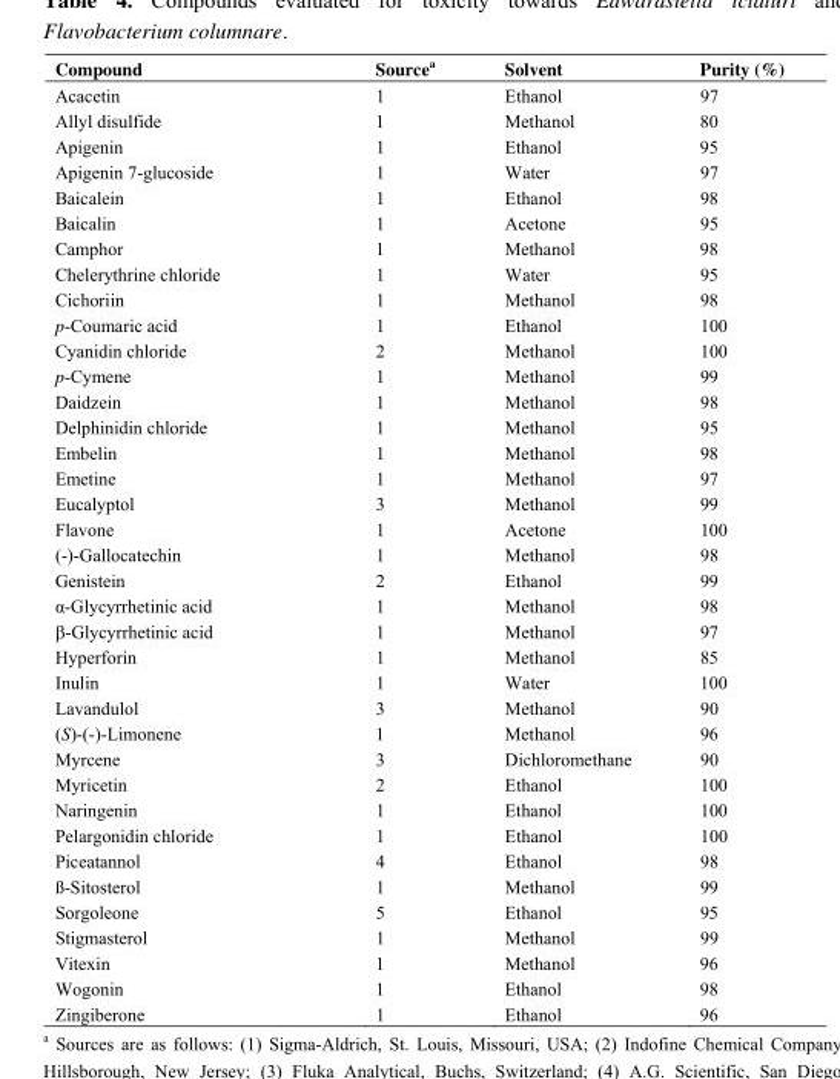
<table><thead><tr><td>Compound</td><td>Source<sup>a</sup></td><td>Solvent</td><td>Purity (%)</td></tr></thead><tbody><tr><td>Acacetin</td><td>1</td><td>Ethanol</td><td>97</td></tr><tr><td>Allyl disulfide</td><td>1</td><td>Methanol</td><td>80</td></tr><tr><td>Apigenin</td><td>1</td><td>Ethanol</td><td>95</td></tr><tr><td>Apigenin 7-glucoside</td><td>1</td><td>Water</td><td>97</td></tr><tr><td>Baicalein</td><td>1</td><td>Ethanol</td><td>98</td></tr><tr><td>Baicalin</td><td>1</td><td>Acetone</td><td>95</td></tr><tr><td>Camphor</td><td>1</td><td>Methanol</td><td>98</td></tr><tr><td>Chelerythrine chloride</td><td>1</td><td>Water</td><td>95</td></tr><tr><td>Cichoriin</td><td>1</td><td>Methanol</td><td>98</td></tr><tr><td>p-Coumaric acid</td><td>1</td><td>Ethanol</td><td>100</td></tr><tr><td>Cyanidin chloride</td><td>2</td><td>Methanol</td><td>100</td></tr><tr><td>p-Cymene</td><td>1</td><td>Methanol</td><td>99</td></tr><tr><td>Daidzein</td><td>1</td><td>Methanol</td><td>98</td></tr><tr><td>Delphinidin chloride</td><td>1</td><td>Methanol</td><td>95</td></tr><tr><td>Embelin</td><td>1</td><td>Methanol</td><td>98</td></tr><tr><td>Emetine</td><td>1</td><td>Methanol</td><td>97</td></tr><tr><td>Eucalyptol</td><td>3</td><td>Methanol</td><td>99</td></tr><tr><td>Flavone</td><td>1</td><td>Acetone</td><td>100</td></tr><tr><td>(-)-Gallocatechin</td><td>1</td><td>Methanol</td><td>98</td></tr><tr><td>Genistein</td><td>2</td><td>Ethanol</td><td>99</td></tr><tr><td>α-Glycyrrhetinic acid</td><td>1</td><td>Methanol</td><td>98</td></tr><tr><td>β-Glycyrrhetinic acid</td><td>1</td><td>Methanol</td><td>97</td></tr><tr><td>Hyperforin</td><td>1</td><td>Methanol</td><td>85</td></tr><tr><td>Inulin</td><td>1</td><td>Water</td><td>100</td></tr><tr><td>Lavandulol</td><td>3</td><td>Methanol</td><td>90</td></tr><tr><td>(S)-(-)-Limonene</td><td>1</td><td>Methanol</td><td>96</td></tr><tr><td>Myrcene</td><td>3</td><td>Dichloromethane</td><td>90</td></tr><tr><td>Myricetin</td><td>2</td><td>Ethanol</td><td>100</td></tr><tr><td>Naringenin</td><td>1</td><td>Ethanol</td><td>100</td></tr><tr><td>Pelargonidin chloride</td><td>1</td><td>Ethanol</td><td>100</td></tr><tr><td>Piceatannol</td><td>4</td><td>Ethanol</td><td>98</td></tr><tr><td>ß-Sitosterol</td><td>1</td><td>Methanol</td><td>99</td></tr><tr><td>Sorgoleone</td><td>5</td><td>Ethanol</td><td>95</td></tr><tr><td>Stigmasterol</td><td>1</td><td>Methanol</td><td>99</td></tr><tr><td>Vitexin</td><td>1</td><td>Methanol</td><td>96</td></tr><tr><td>Wogonin</td><td>1</td><td>Ethanol</td><td>98</td></tr><tr><td>Zingiberone</td><td>1</td><td>Ethanol</td><td>96</td></tr></tbody></table>